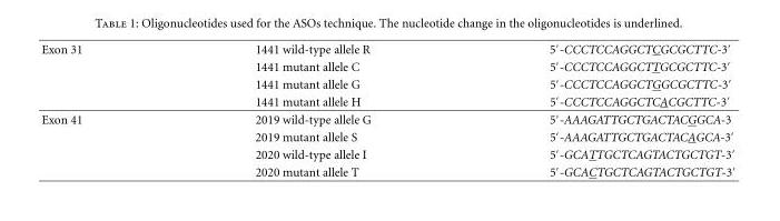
<table><tbody><tr><td rowspan="4">Exon 31</td><td>1441 wild-type allele R</td><td>5′-CCCTCCAGGCTCGCGCTTC-3′</td></tr><tr><td>1441 mutant allele C</td><td>5′-CCCTCCAGGCTTGCGCTTC-3′</td></tr><tr><td>1441 mutant allele G</td><td>5′-CCCTCCAGGCTGGCGCTTC-3′</td></tr><tr><td>1441 mutant allele H</td><td>5′-CCCTCCAGGCTCACGCTTC-3′</td></tr><tr><td rowspan="4">Exon 41</td><td>2019 wild-type allele G</td><td>5′-AAAGATTGCTGACTACGGCA-3</td></tr><tr><td>2019 mutant allele S</td><td>5′-AAAGATTGCTGACTACAGCA-3′</td></tr><tr><td>2020 wild-type allele I</td><td>5′-GCATTGCTCAGTACTGCTGT-3′</td></tr><tr><td>2020 mutant allele T</td><td>5′-GCACTGCTCAGTACTGCTGT-3′</td></tr></tbody></table>